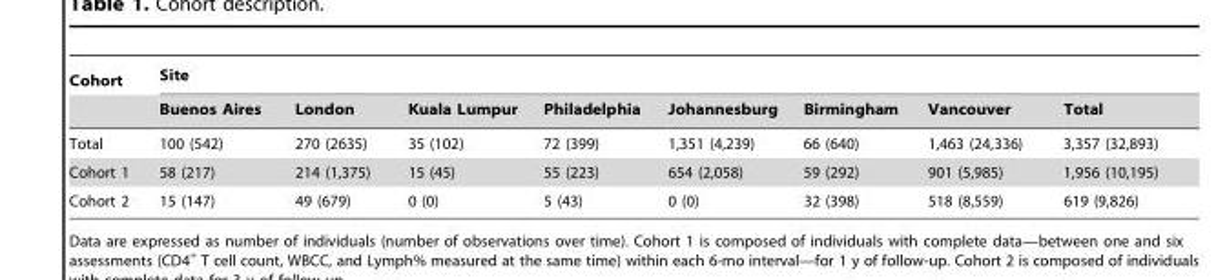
<table><thead><tr><td rowspan="2">Cohort</td><td colspan="8">Site</td></tr><tr><td>Buenos Aires</td><td>London</td><td>Kuala Lumpur</td><td>Philadelphia</td><td>Johannesburg</td><td>Birmingham</td><td>Vancouver</td><td>Total</td></tr></thead><tbody><tr><td>Total</td><td>100 (542)</td><td>270 (2635)</td><td>35 (102)</td><td>72 (399)</td><td>1,351 (4,239)</td><td>66 (640)</td><td>1,463 (24,336)</td><td>3,357 (32,893)</td></tr><tr><td>Cohort 1</td><td>58 (217)</td><td>214 (1,375)</td><td>15 (45)</td><td>55 (223)</td><td>654 (2,058)</td><td>59 (292)</td><td>901 (5,985)</td><td>1,956 (10,195)</td></tr><tr><td>Cohort 2</td><td>15 (147)</td><td>49 (679)</td><td>0 (0)</td><td>5 (43)</td><td>0 (0)</td><td>32 (398)</td><td>518 (8,559)</td><td>619 (9,826)</td></tr></tbody></table>